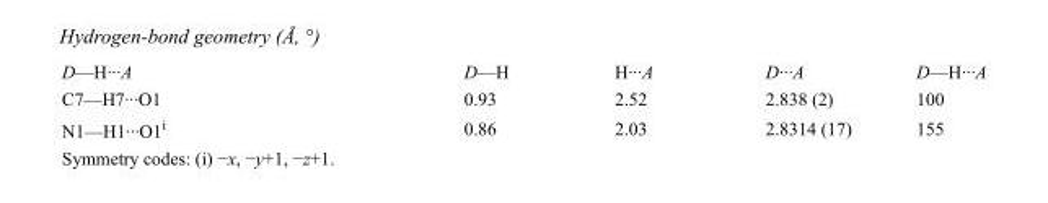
<table><tbody><tr><td>D—H···A</td><td>D—H</td><td>H···A</td><td>D···A</td><td>D—H···A</td></tr><tr><td>C7—H7···O1</td><td>0.93</td><td>2.52</td><td>2.838 (2)</td><td>100</td></tr><tr><td>N1—H1···O1<sup>i</sup></td><td>0.86</td><td>2.03</td><td>2.8314 (17)</td><td>155</td></tr></tbody></table>